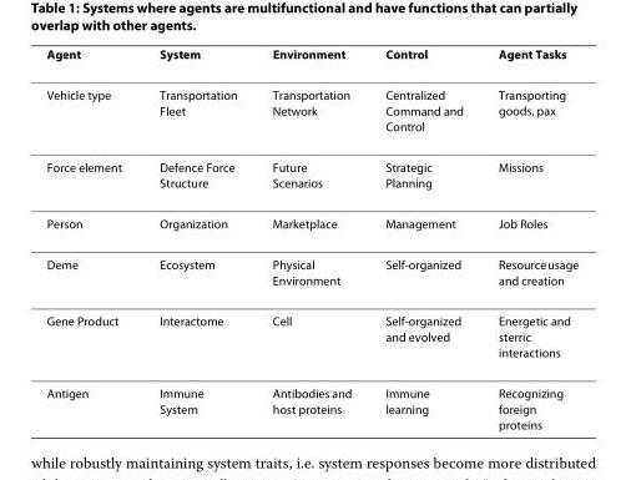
<table><thead><tr><td>Agent</td><td>System</td><td>Environment</td><td>Control</td><td>Agent Tasks</td></tr></thead><tbody><tr><td>Vehicle type</td><td>Transportation Fleet</td><td>Transportation Network</td><td>Centralized Command and Control</td><td>Transporting goods, pax</td></tr><tr><td>Force element</td><td>Defence Force Structure</td><td>Future Scenarios</td><td>Strategic Planning</td><td>Missions</td></tr><tr><td>Person</td><td>Organization</td><td>Marketplace</td><td>Management</td><td>Job Roles</td></tr><tr><td>Deme</td><td>Ecosystem</td><td>Physical Environment</td><td>Self-organized</td><td>Resource usage and creation</td></tr><tr><td>Gene Product</td><td>Interactome</td><td>Cell</td><td>Self-organized and evolved</td><td>Energetic and sterric interactions</td></tr><tr><td>Antigen</td><td>Immune System</td><td>Antibodies and host proteins</td><td>Immune learning</td><td>Recognizing foreign proteins</td></tr></tbody></table>